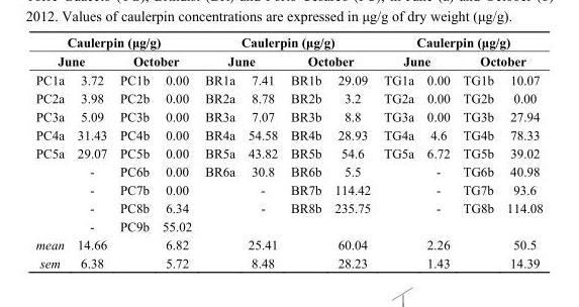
<table><thead><tr><td colspan="4">Caulerpin (μg/g)</td><td colspan="4">Caulerpin (μg/g)</td><td colspan="4">Caulerpin (μg/g)</td></tr><tr><td colspan="2">June</td><td colspan="2">October</td><td colspan="2">June</td><td colspan="2">October</td><td colspan="2">June</td><td colspan="2">October</td></tr><tr><td>PC1a</td><td>3.72</td><td>PC1b</td><td>0.00</td><td>BR1a</td><td>7.41</td><td>BR1b</td><td>29.09</td><td>TG1a</td><td>0.00</td><td>TG1b</td><td>10.07</td></tr></thead><tbody><tr><td>PC2a</td><td>3.98</td><td>PC2b</td><td>0.00</td><td>BR2a</td><td>8.78</td><td>BR2b</td><td>3.2</td><td>TG2a</td><td>0.00</td><td>TG2b</td><td>0.00</td></tr><tr><td>PC3a</td><td>5.09</td><td>PC3b</td><td>0.00</td><td>BR3a</td><td>7.07</td><td>BR3b</td><td>8.8</td><td>TG3a</td><td>0.00</td><td>TG3b</td><td>27.94</td></tr><tr><td>PC4a</td><td>31.43</td><td>PC4b</td><td>0.00</td><td>BR4a</td><td>54.58</td><td>BR4b</td><td>28.93</td><td>TG4a</td><td>4.6</td><td>TG4b</td><td>78.33</td></tr><tr><td rowspan="5">PC5a</td><td>29.07</td><td>PC5b</td><td>0.00</td><td>BR5a</td><td>43.82</td><td>BR5b</td><td>54.6</td><td>TG5a</td><td>6.72</td><td>TG5b</td><td>39.02</td></tr><tr><td>-</td><td>PC6b</td><td>0.00</td><td>BR6a</td><td>30.8</td><td>BR6b</td><td>5.5</td><td></td><td>-</td><td>TG6b</td><td>40.98</td></tr><tr><td>-</td><td>PC7b</td><td>0.00</td><td></td><td>-</td><td>BR7b</td><td>114.42</td><td></td><td>-</td><td>TG7b</td><td>93.6</td></tr><tr><td>-</td><td>PC8b</td><td>6.34</td><td></td><td>-</td><td>BR8b</td><td>235.75</td><td></td><td>-</td><td>TG8b</td><td>114.08</td></tr><tr><td>-</td><td>PC9b</td><td>55.02</td><td></td><td></td><td></td><td></td><td></td><td></td><td></td><td></td></tr><tr><td>mean</td><td>14.66</td><td></td><td>6.82</td><td></td><td>25.41</td><td></td><td>60.04</td><td></td><td>2.26</td><td></td><td>50.5</td></tr><tr><td>sem</td><td>6.38</td><td></td><td>5.72</td><td></td><td>8.48</td><td></td><td>28.23</td><td></td><td>1.43</td><td></td><td>14.39</td></tr></tbody></table>